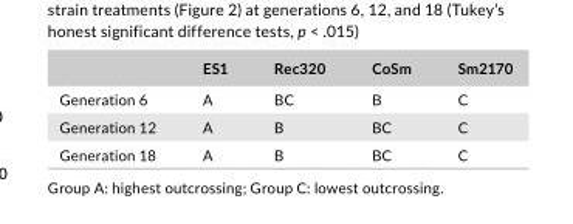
<table><thead><tr><td></td><td>ES1</td><td>Rec320</td><td>CoSm</td><td>Sm2170</td></tr></thead><tbody><tr><td>Generation 6</td><td>A</td><td>BC</td><td>B</td><td>C</td></tr><tr><td>Generation 12</td><td>A</td><td>B</td><td>BC</td><td>C</td></tr><tr><td>Generation 18</td><td>A</td><td>B</td><td>BC</td><td>C</td></tr></tbody></table>